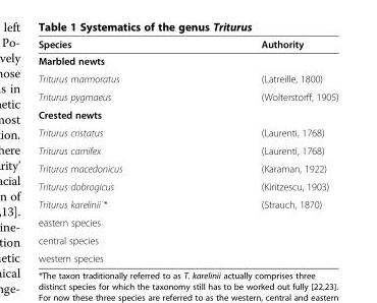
<table><thead><tr><td>Species</td><td>Authority</td></tr></thead><tbody><tr><td colspan="2">Marbled newts</td></tr><tr><td>Triturus marmoratus</td><td>(Latreille, 1800)</td></tr><tr><td>Triturus pygmaeus</td><td>(Wolterstorff, 1905)</td></tr><tr><td colspan="2">Crested newts</td></tr><tr><td>Triturus cristatus</td><td>(Laurenti, 1768)</td></tr><tr><td>Triturus carnifex</td><td>(Laurenti, 1768)</td></tr><tr><td>Triturus macedonicus</td><td>(Karaman, 1922)</td></tr><tr><td>Triturus dobrogicus</td><td>(Kiritzescu, 1903)</td></tr><tr><td>Triturus karelinii *</td><td>(Strauch, 1870)</td></tr><tr><td colspan="2">eastern species</td></tr><tr><td colspan="2">central species</td></tr><tr><td>western species</td><td></td></tr></tbody></table>